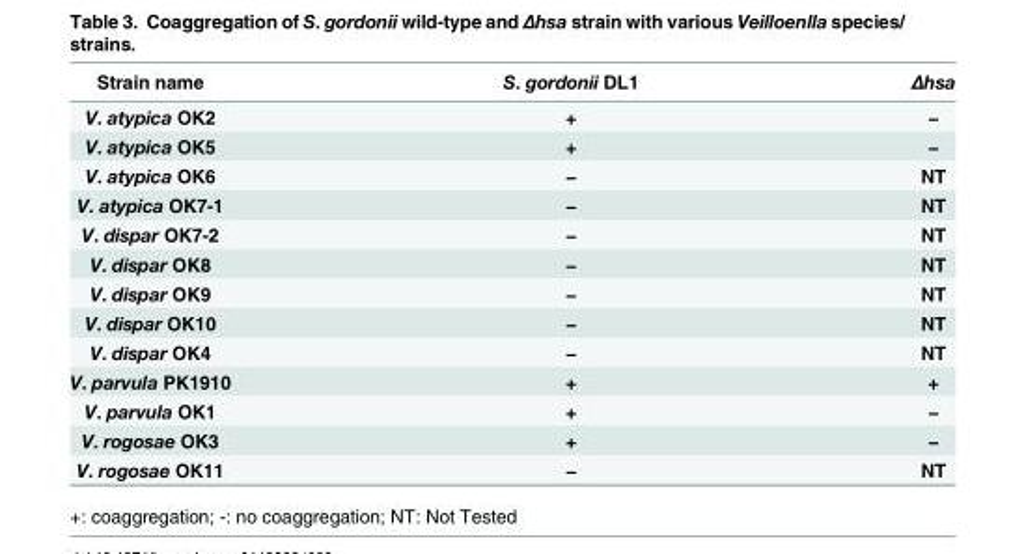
<table><thead><tr><td>Strain name</td><td>S. gordonii DL1</td><td>Δhsa</td></tr></thead><tbody><tr><td>V. atypica OK2</td><td>+</td><td>−</td></tr><tr><td>V. atypica OK5</td><td>+</td><td>−</td></tr><tr><td>V. atypica OK6</td><td>−</td><td>NT</td></tr><tr><td>V. atypica OK7-1</td><td>−</td><td>NT</td></tr><tr><td>V. dispar OK7-2</td><td>−</td><td>NT</td></tr><tr><td>V. dispar OK8</td><td>−</td><td>NT</td></tr><tr><td>V. dispar OK9</td><td>−</td><td>NT</td></tr><tr><td>V. dispar OK10</td><td>−</td><td>NT</td></tr><tr><td>V. dispar OK4</td><td>−</td><td>NT</td></tr><tr><td>V. parvula PK1910</td><td>+</td><td>+</td></tr><tr><td>V. parvula OK1</td><td>+</td><td>−</td></tr><tr><td>V. rogosae OK3</td><td>+</td><td>−</td></tr><tr><td>V. rogosae OK11</td><td>−</td><td>NT</td></tr></tbody></table>